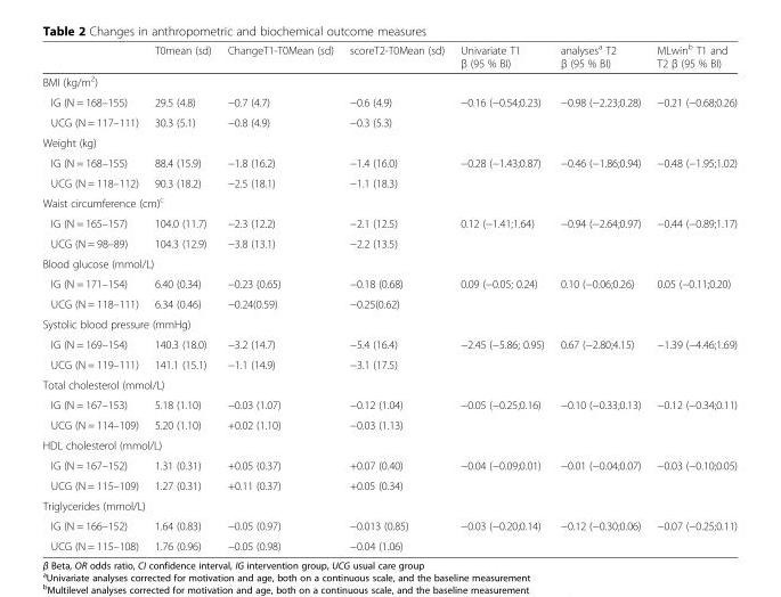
<table><thead><tr><td></td><td>T0mean (sd)</td><td>ChangeT1-T0Mean (sd)</td><td>scoreT2-T0Mean (sd)</td><td>Univariate T1 β (95 % BI)</td><td>analyses<sup>a</sup> T2 β (95 % BI)</td><td>MLwin<sup>b</sup> T1 and T2 β (95 % BI)</td></tr></thead><tbody><tr><td colspan="7">BMI (kg/m<sup>2</sup>)</td></tr><tr><td>IG (N = 168–155)</td><td>29.5 (4.8)</td><td>−0.7 (4.7)</td><td>−0.6 (4.9)</td><td>−0.16 (−0.54;0.23)</td><td>−0.98 (−2.23;0.28)</td><td>−0.21 (−0.68;0.26)</td></tr><tr><td>UCG (N = 117–111)</td><td>30.3 (5.1)</td><td>−0.8 (4.9)</td><td>−0.3 (5.3)</td><td></td><td></td><td></td></tr><tr><td colspan="7">Weight (kg)</td></tr><tr><td>IG (N = 168–155)</td><td>88.4 (15.9)</td><td>−1.8 (16.2)</td><td>−1.4 (16.0)</td><td>−0.28 (−1.43;0.87)</td><td>−0.46 (−1.86;0.94)</td><td>−0.48 (−1.95;1.02)</td></tr><tr><td>UCG (N = 118–112)</td><td>90.3 (18.2)</td><td>−2.5 (18.1)</td><td>−1.1 (18.3)</td><td></td><td></td><td></td></tr><tr><td colspan="7">Waist circumference (cm)<sup>c</sup></td></tr><tr><td>IG (N = 165–157)</td><td>104.0 (11.7)</td><td>−2.3 (12.2)</td><td>−2.1 (12.5)</td><td>0.12 (−1.41;1.64)</td><td>−0.94 (−2.64;0.97)</td><td>−0.44 (−0.89;1.17)</td></tr><tr><td>UCG (N = 98–89)</td><td>104.3 (12.9)</td><td>−3.8 (13.1)</td><td>−2.2 (13.5)</td><td></td><td></td><td></td></tr><tr><td colspan="7">Blood glucose (mmol/L)</td></tr><tr><td>IG (N = 171–154)</td><td>6.40 (0.34)</td><td>−0.23 (0.65)</td><td>−0.18 (0.68)</td><td>0.09 (−0.05; 0.24)</td><td>0.10 (−0.06;0.26)</td><td>0.05 (−0.11;0.20)</td></tr><tr><td>UCG (N = 118–111)</td><td>6.34 (0.46)</td><td>−0.24(0.59)</td><td>−0.25(0.62)</td><td></td><td></td><td></td></tr><tr><td colspan="7">Systolic blood pressure (mmHg)</td></tr><tr><td>IG (N = 169–154)</td><td>140.3 (18.0)</td><td>−3.2 (14.7)</td><td>−5.4 (16.4)</td><td>−2.45 (−5.86; 0.95)</td><td>0.67 (−2.80;4.15)</td><td>−1.39 (−4.46;1.69)</td></tr><tr><td>UCG (N = 119–111)</td><td>141.1 (15.1)</td><td>−1.1 (14.9)</td><td>−3.1 (17.5)</td><td></td><td></td><td></td></tr><tr><td colspan="7">Total cholesterol (mmol/L)</td></tr><tr><td>IG (N = 167–153)</td><td>5.18 (1.10)</td><td>−0.03 (1.07)</td><td>−0.12 (1.04)</td><td>−0.05 (−0.25;0.16)</td><td>−0.10 (−0.33;0.13)</td><td>−0.12 (−0.34;0.11)</td></tr><tr><td>UCG (N = 114–109)</td><td>5.20 (1.10)</td><td>+0.02 (1.10)</td><td>−0.03 (1.13)</td><td></td><td></td><td></td></tr><tr><td colspan="7">HDL cholesterol (mmol/L)</td></tr><tr><td>IG (N = 167–152)</td><td>1.31 (0.31)</td><td>+0.05 (0.37)</td><td>+0.07 (0.40)</td><td>−0.04 (−0.09;0.01)</td><td>−0.01 (−0.04;0.07)</td><td>−0.03 (−0.10;0.05)</td></tr><tr><td>UCG (N = 115–109)</td><td>1.27 (0.31)</td><td>+0.11 (0.37)</td><td>+0.05 (0.34)</td><td></td><td></td><td></td></tr><tr><td colspan="7">Triglycerides (mmol/L)</td></tr><tr><td>IG (N = 166–152)</td><td>1.64 (0.83)</td><td>−0.05 (0.97)</td><td>−0.013 (0.85)</td><td>−0.03 (−0.20;0.14)</td><td>−0.12 (−0.30;0.06)</td><td>−0.07 (−0.25;0.11)</td></tr><tr><td>UCG (N = 115–108)</td><td>1.76 (0.96)</td><td>−0.05 (0.98)</td><td>−0.04 (1.06)</td><td></td><td></td><td></td></tr></tbody></table>